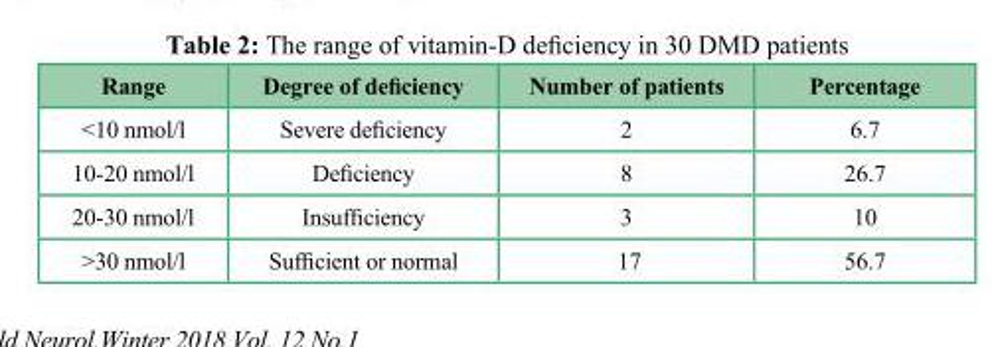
<table><thead><tr><td>Range</td><td>Degree of deficiency</td><td>Number of patients</td><td>Percentage</td></tr></thead><tbody><tr><td>&lt;10 nmol/l</td><td>Severe deficiency</td><td>2</td><td>6.7</td></tr><tr><td>10-20 nmol/l</td><td>Deficiency</td><td>8</td><td>26.7</td></tr><tr><td>20-30 nmol/l</td><td>Insufficiency</td><td>3</td><td>10</td></tr><tr><td>&gt;30 nmol/l</td><td>Sufficient or normal</td><td>17</td><td>56.7</td></tr></tbody></table>